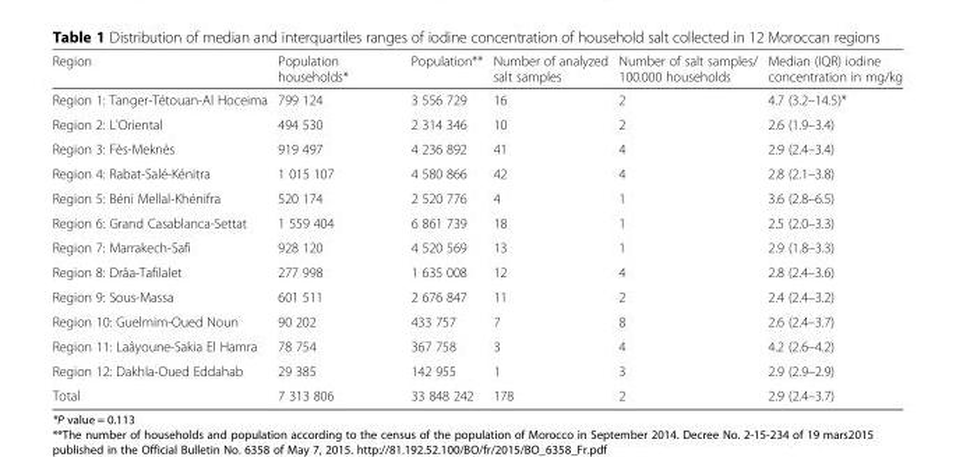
<table><thead><tr><td>Region</td><td>Population households*</td><td>Population**</td><td>Number of analyzed salt samples</td><td>Number of salt samples/ 100.000 households</td><td>Median (IQR) iodine concentration in mg/kg</td></tr></thead><tbody><tr><td>Region 1: Tanger-Tétouan-Al Hoceima</td><td>799 124</td><td>3 556 729</td><td>16</td><td>2</td><td>4.7 (3.2–14.5)*</td></tr><tr><td>Region 2: L&#x27;Oriental</td><td>494 530</td><td>2 314 346</td><td>10</td><td>2</td><td>2.6 (1.9–3.4)</td></tr><tr><td>Region 3: Fès-Meknès</td><td>919 497</td><td>4 236 892</td><td>41</td><td>4</td><td>2.9 (2.4–3.4)</td></tr><tr><td>Region 4: Rabat-Salé-Kénitra</td><td>1 015 107</td><td>4 580 866</td><td>42</td><td>4</td><td>2.8 (2.1–3.8)</td></tr><tr><td>Region 5: Béni Mellal-Khénifra</td><td>520 174</td><td>2 520 776</td><td>4</td><td>1</td><td>3.6 (2.8–6.5)</td></tr><tr><td>Region 6: Grand Casablanca-Settat</td><td>1 559 404</td><td>6 861 739</td><td>18</td><td>1</td><td>2.5 (2.0–3.3)</td></tr><tr><td>Region 7: Marrakech-Safi</td><td>928 120</td><td>4 520 569</td><td>13</td><td>1</td><td>2.9 (1.8–3.3)</td></tr><tr><td>Region 8: Drâa-Tafilalet</td><td>277 998</td><td>1 635 008</td><td>12</td><td>4</td><td>2.8 (2.4–3.6)</td></tr><tr><td>Region 9: Sous-Massa</td><td>601 511</td><td>2 676 847</td><td>11</td><td>2</td><td>2.4 (2.4–3.2)</td></tr><tr><td>Region 10: Guelmim-Oued Noun</td><td>90 202</td><td>433 757</td><td>7</td><td>8</td><td>2.6 (2.4–3.7)</td></tr><tr><td>Region 11: Laâyoune-Sakia El Hamra</td><td>78 754</td><td>367 758</td><td>3</td><td>4</td><td>4.2 (2.6–4.2)</td></tr><tr><td>Region 12: Dakhla-Oued Eddahab</td><td>29 385</td><td>142 955</td><td>1</td><td>3</td><td>2.9 (2.9–2.9)</td></tr><tr><td>Total</td><td>7 313 806</td><td>33 848 242</td><td>178</td><td>2</td><td>2.9 (2.4–3.7)</td></tr></tbody></table>